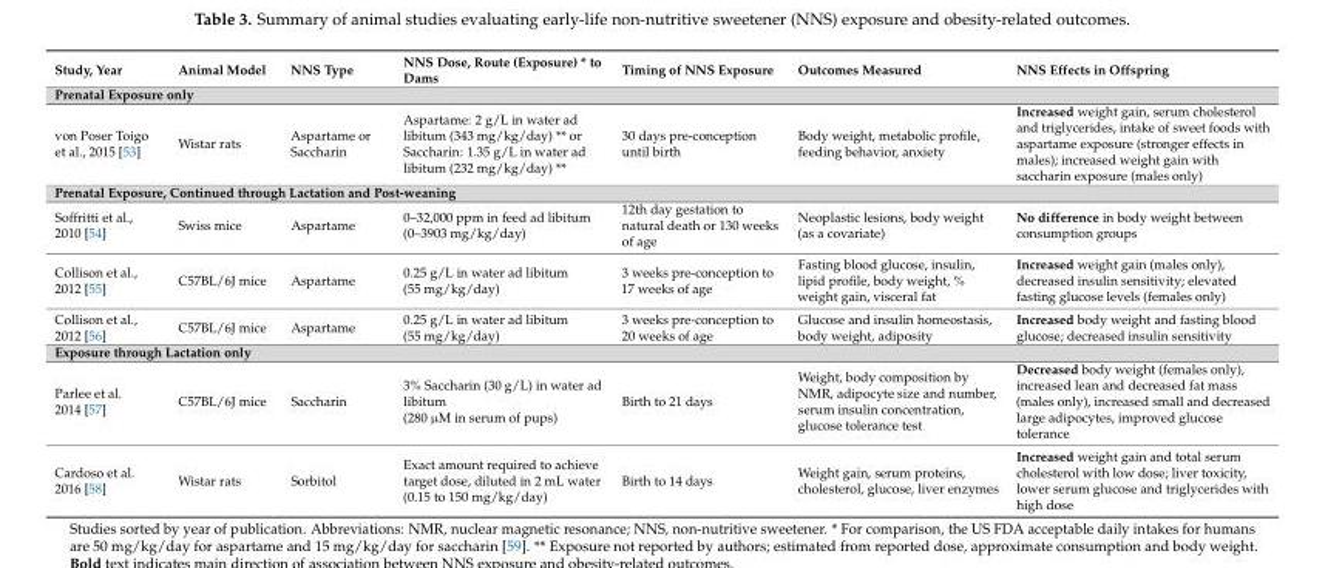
<table><thead><tr><td>Study, Year</td><td>Animal Model</td><td>NNS Type</td><td>NNS Dose, Route (Exposure) * to Dams</td><td>Timing of NNS Exposure</td><td>Outcomes Measured</td><td>NNS Effects in Offspring</td></tr></thead><tbody><tr><td colspan="7">Prenatal Exposure only</td></tr><tr><td>von Poser Toigo et al., 2015 [53]</td><td>Wistar rats</td><td>Aspartame or Saccharin</td><td>Aspartame: 2 g/L in water ad libitum (343 mg/kg/day) ** or Saccharin: 1.35 g/L in water ad libitum (232 mg/kg/day) **</td><td>30 days pre-conception until birth</td><td>Body weight, metabolic profile, feeding behavior, anxiety</td><td>Increased weight gain, serum cholesterol and triglycerides, intake of sweet foods with aspartame exposure (stronger effects in males); increased weight gain with saccharin exposure (males only)</td></tr><tr><td colspan="7">Prenatal Exposure, Continued through Lactation and Post-weaning</td></tr><tr><td>Soffritti et al., 2010 [54]</td><td>Swiss mice</td><td>Aspartame</td><td>0–32,000 ppm in feed ad libitum (0–3903 mg/kg/day)</td><td>12th day gestation to natural death or 130 weeks of age</td><td>Neoplastic lesions, body weight (as a covariate)</td><td>No difference in body weight between consumption groups</td></tr><tr><td>Collison et al., 2012 [55]</td><td>C57BL/6J mice</td><td>Aspartame</td><td>0.25 g/L in water ad libitum (55 mg/kg/day)</td><td>3 weeks pre-conception to 17 weeks of age</td><td>Fasting blood glucose, insulin, lipid profile, body weight, % weight gain, visceral fat</td><td>Increased weight gain (males only), decreased insulin sensitivity; elevated fasting glucose levels (females only)</td></tr><tr><td>Collison et al., 2012 [56]</td><td>C57BL/6J mice</td><td>Aspartame</td><td>0.25 g/L in water ad libitum (55 mg/kg/day)</td><td>3 weeks pre-conception to 20 weeks of age</td><td>Glucose and insulin homeostasis, body weight, adiposity</td><td>Increased body weight and fasting blood glucose; decreased insulin sensitivity</td></tr><tr><td colspan="7">Exposure through Lactation only</td></tr><tr><td>Parlee et al. 2014 [57]</td><td>C57BL/6J mice</td><td>Saccharin</td><td>3% Saccharin (30 g/L) in water ad libitum (280 µM in serum of pups)</td><td>Birth to 21 days</td><td>Weight, body composition by NMR, adipocyte size and number, serum insulin concentration, glucose tolerance test</td><td>Decreased body weight (females only), increased lean and decreased fat mass (males only), increased small and decreased large adipocytes, improved glucose tolerance</td></tr><tr><td>Cardoso et al. 2016 [58]</td><td>Wistar rats</td><td>Sorbitol</td><td>Exact amount required to achieve target dose, diluted in 2 mL water (0.15 to 150 mg/kg/day)</td><td>Birth to 14 days</td><td>Weight gain, serum proteins, cholesterol, glucose, liver enzymes</td><td>Increased weight gain and total serum cholesterol with low dose; liver toxicity, lower serum glucose and triglycerides with high dose</td></tr></tbody></table>